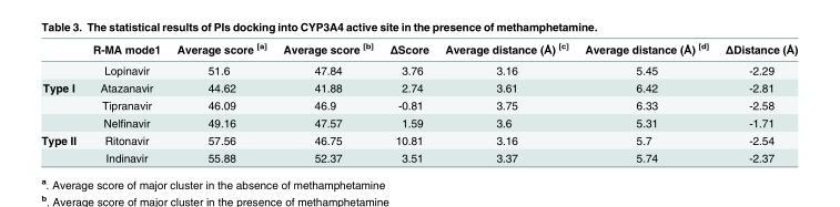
<table><thead><tr><td></td><td>R-MA mode1</td><td>Average score <sup>[a]</sup></td><td>Average score <sup>[b]</sup></td><td>ΔScore</td><td>Average distance (Å) <sup>[c]</sup></td><td>Average distance (Å) <sup>[d]</sup></td><td>ΔDistance (Å)</td></tr></thead><tbody><tr><td></td><td>Lopinavir</td><td>51.6</td><td>47.84</td><td>3.76</td><td>3.16</td><td>5.45</td><td>-2.29</td></tr><tr><td rowspan="3">Type I</td><td>Atazanavir</td><td>44.62</td><td>41.88</td><td>2.74</td><td>3.61</td><td>6.42</td><td>-2.81</td></tr><tr><td>Tipranavir</td><td>46.09</td><td>46.9</td><td>-0.81</td><td>3.75</td><td>6.33</td><td>-2.58</td></tr><tr><td>Nelfinavir</td><td>49.16</td><td>47.57</td><td>1.59</td><td>3.6</td><td>5.31</td><td>-1.71</td></tr><tr><td rowspan="2">Type II</td><td>Ritonavir</td><td>57.56</td><td>46.75</td><td>10.81</td><td>3.16</td><td>5.7</td><td>-2.54</td></tr><tr><td>Indinavir</td><td>55.88</td><td>52.37</td><td>3.51</td><td>3.37</td><td>5.74</td><td>-2.37</td></tr></tbody></table>